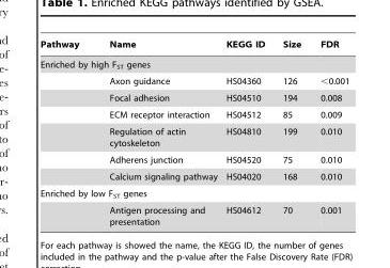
<table><thead><tr><td>Pathway</td><td>Name</td><td>KEGG ID</td><td>Size</td><td>FDR</td></tr></thead><tbody><tr><td colspan="5">Enriched by high F<sub>ST</sub> genes</td></tr><tr><td></td><td>Axon guidance</td><td>HS04360</td><td>126</td><td>&lt;0.001</td></tr><tr><td></td><td>Focal adhesion</td><td>HS04510</td><td>194</td><td>0.008</td></tr><tr><td></td><td>ECM receptor interaction</td><td>HS04512</td><td>85</td><td>0.009</td></tr><tr><td></td><td>Regulation of actin cytoskeleton</td><td>HS04810</td><td>199</td><td>0.010</td></tr><tr><td></td><td>Adherens junction</td><td>HS04520</td><td>75</td><td>0.010</td></tr><tr><td></td><td>Calcium signaling pathway</td><td>HS04020</td><td>168</td><td>0.010</td></tr><tr><td colspan="5">Enriched by low F<sub>ST</sub> genes</td></tr><tr><td></td><td>Antigen processing and presentation</td><td>HS04612</td><td>70</td><td>0.001</td></tr></tbody></table>